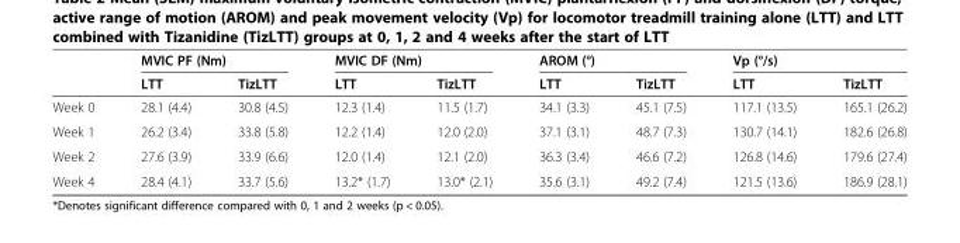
<table><thead><tr><td rowspan="2"></td><td colspan="2">MVIC PF (Nm)</td><td colspan="2">MVIC DF (Nm)</td><td colspan="2">AROM (°)</td><td colspan="2">Vp (°/s)</td></tr><tr><td>LTT</td><td>TizLTT</td><td>LTT</td><td>TizLTT</td><td>LTT</td><td>TizLTT</td><td>LTT</td><td>TizLTT</td></tr></thead><tbody><tr><td>Week 0</td><td>28.1 (4.4)</td><td>30.8 (4.5)</td><td>12.3 (1.4)</td><td>11.5 (1.7)</td><td>34.1 (3.3)</td><td>45.1 (7.5)</td><td>117.1 (13.5)</td><td>165.1 (26.2)</td></tr><tr><td>Week 1</td><td>26.2 (3.4)</td><td>33.8 (5.8)</td><td>12.2 (1.4)</td><td>12.0 (2.0)</td><td>37.1 (3.1)</td><td>48.7 (7.3)</td><td>130.7 (14.1)</td><td>182.6 (26.8)</td></tr><tr><td>Week 2</td><td>27.6 (3.9)</td><td>33.9 (6.6)</td><td>12.0 (1.4)</td><td>12.1 (2.0)</td><td>36.3 (3.4)</td><td>46.6 (7.2)</td><td>126.8 (14.6)</td><td>179.6 (27.4)</td></tr><tr><td>Week 4</td><td>28.4 (4.1)</td><td>33.7 (5.6)</td><td>13.2* (1.7)</td><td>13.0* (2.1)</td><td>35.6 (3.1)</td><td>49.2 (7.4)</td><td>121.5 (13.6)</td><td>186.9 (28.1)</td></tr></tbody></table>